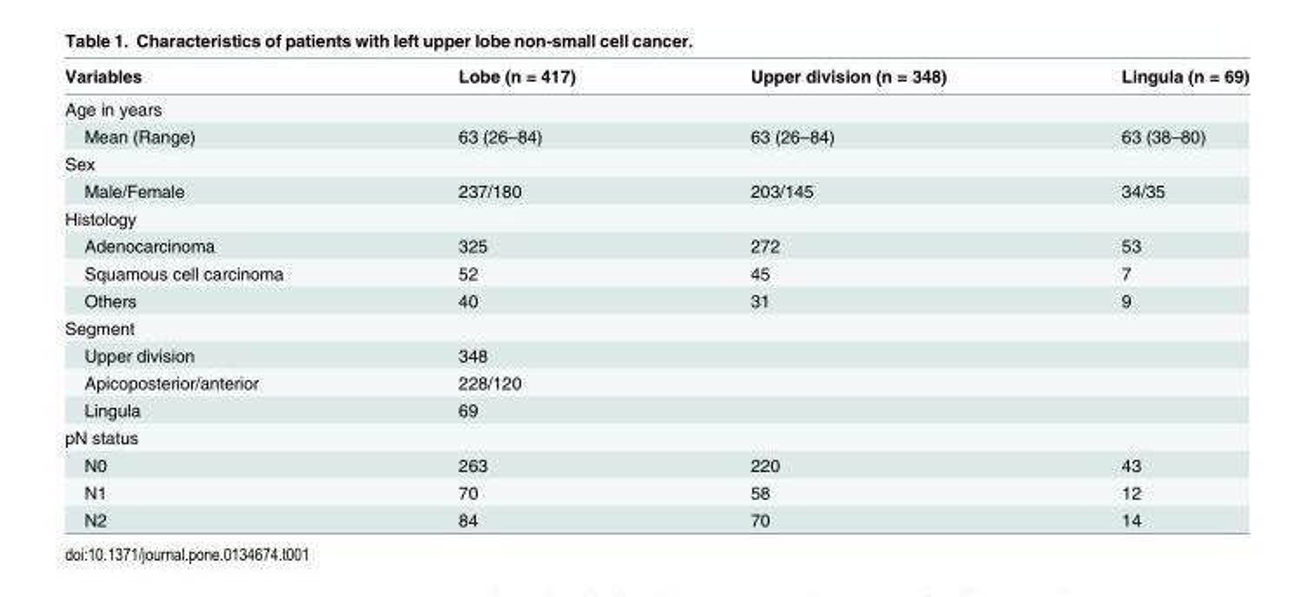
<table><thead><tr><td>Variables</td><td>Lobe (n = 417)</td><td>Upper division (n = 348)</td><td>Lingula (n = 69)</td></tr></thead><tbody><tr><td colspan="4">Age in years</td></tr><tr><td>Mean (Range)</td><td>63 (26–84)</td><td>63 (26–84)</td><td>63 (38–80)</td></tr><tr><td colspan="4">Sex</td></tr><tr><td>Male/Female</td><td>237/180</td><td>203/145</td><td>34/35</td></tr><tr><td colspan="4">Histology</td></tr><tr><td>Adenocarcinoma</td><td>325</td><td>272</td><td>53</td></tr><tr><td>Squamous cell carcinoma</td><td>52</td><td>45</td><td>7</td></tr><tr><td>Others</td><td>40</td><td>31</td><td>9</td></tr><tr><td colspan="4">Segment</td></tr><tr><td>Upper division</td><td>348</td><td></td><td></td></tr><tr><td>Apicoposterior/anterior</td><td>228/120</td><td></td><td></td></tr><tr><td>Lingula</td><td>69</td><td></td><td></td></tr><tr><td colspan="4">pN status</td></tr><tr><td>N0</td><td>263</td><td>220</td><td>43</td></tr><tr><td>N1</td><td>70</td><td>58</td><td>12</td></tr><tr><td>N2</td><td>84</td><td>70</td><td>14</td></tr></tbody></table>